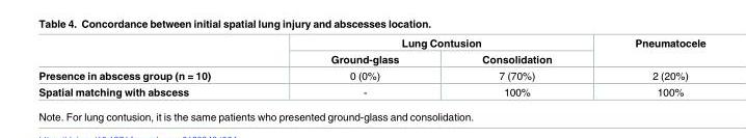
<table><thead><tr><td rowspan="2"></td><td colspan="2">Lung Contusion</td><td rowspan="2">Pneumatocele</td></tr><tr><td>Ground-glass</td><td>Consolidation</td></tr></thead><tbody><tr><td>Presence in abscess group (n = 10)</td><td>0 (0%)</td><td>7 (70%)</td><td>2 (20%)</td></tr><tr><td>Spatial matching with abscess</td><td>-</td><td>100%</td><td>100%</td></tr></tbody></table>